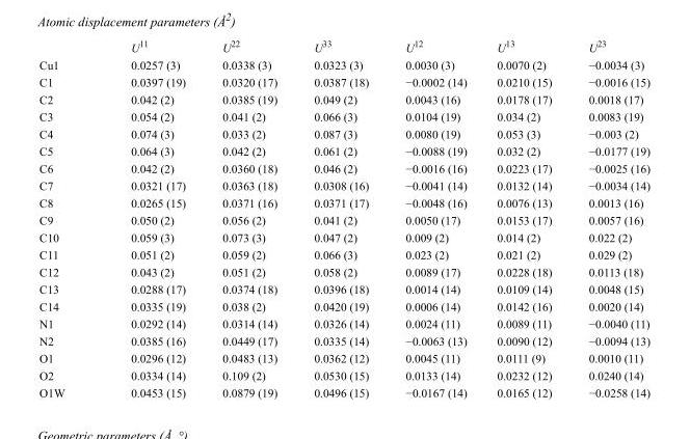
<table><thead><tr><td></td><td>U<sup>11</sup></td><td>U<sup>22</sup></td><td>U<sup>33</sup></td><td>U<sup>12</sup></td><td>U<sup>13</sup></td><td>U<sup>23</sup></td></tr></thead><tbody><tr><td>Cu1</td><td>0.0257 (3)</td><td>0.0338 (3)</td><td>0.0323 (3)</td><td>0.0030 (3)</td><td>0.0070 (2)</td><td>−0.0034 (3)</td></tr><tr><td>C1</td><td>0.0397 (19)</td><td>0.0320 (17)</td><td>0.0387 (18)</td><td>−0.0002 (14)</td><td>0.0210 (15)</td><td>−0.0016 (15)</td></tr><tr><td>C2</td><td>0.042 (2)</td><td>0.0385 (19)</td><td>0.049 (2)</td><td>0.0043 (16)</td><td>0.0178 (17)</td><td>0.0018 (17)</td></tr><tr><td>C3</td><td>0.054 (2)</td><td>0.041 (2)</td><td>0.066 (3)</td><td>0.0104 (19)</td><td>0.034 (2)</td><td>0.0083 (19)</td></tr><tr><td>C4</td><td>0.074 (3)</td><td>0.033 (2)</td><td>0.087 (3)</td><td>0.0080 (19)</td><td>0.053 (3)</td><td>−0.003 (2)</td></tr><tr><td>C5</td><td>0.064 (3)</td><td>0.042 (2)</td><td>0.061 (2)</td><td>−0.0088 (19)</td><td>0.032 (2)</td><td>−0.0177 (19)</td></tr><tr><td>C6</td><td>0.042 (2)</td><td>0.0360 (18)</td><td>0.046 (2)</td><td>−0.0016 (16)</td><td>0.0223 (17)</td><td>−0.0025 (16)</td></tr><tr><td>C7</td><td>0.0321 (17)</td><td>0.0363 (18)</td><td>0.0308 (16)</td><td>−0.0041 (14)</td><td>0.0132 (14)</td><td>−0.0034 (14)</td></tr><tr><td>C8</td><td>0.0265 (15)</td><td>0.0371 (16)</td><td>0.0371 (17)</td><td>−0.0048 (16)</td><td>0.0076 (13)</td><td>0.0013 (16)</td></tr><tr><td>C9</td><td>0.050 (2)</td><td>0.056 (2)</td><td>0.041 (2)</td><td>0.0050 (17)</td><td>0.0153 (17)</td><td>0.0057 (16)</td></tr><tr><td>C10</td><td>0.059 (3)</td><td>0.073 (3)</td><td>0.047 (2)</td><td>0.009 (2)</td><td>0.014 (2)</td><td>0.022 (2)</td></tr><tr><td>C11</td><td>0.051 (2)</td><td>0.059 (2)</td><td>0.066 (3)</td><td>0.023 (2)</td><td>0.021 (2)</td><td>0.029 (2)</td></tr><tr><td>C12</td><td>0.043 (2)</td><td>0.051 (2)</td><td>0.058 (2)</td><td>0.0089 (17)</td><td>0.0228 (18)</td><td>0.0113 (18)</td></tr><tr><td>C13</td><td>0.0288 (17)</td><td>0.0374 (18)</td><td>0.0396 (18)</td><td>0.0014 (14)</td><td>0.0109 (14)</td><td>0.0048 (15)</td></tr><tr><td>C14</td><td>0.0335 (19)</td><td>0.038 (2)</td><td>0.0420 (19)</td><td>0.0006 (14)</td><td>0.0142 (16)</td><td>0.0020 (14)</td></tr><tr><td>N1</td><td>0.0292 (14)</td><td>0.0314 (14)</td><td>0.0326 (14)</td><td>0.0024 (11)</td><td>0.0089 (11)</td><td>−0.0040 (11)</td></tr><tr><td>N2</td><td>0.0385 (16)</td><td>0.0449 (17)</td><td>0.0335 (14)</td><td>−0.0063 (13)</td><td>0.0090 (12)</td><td>−0.0094 (13)</td></tr><tr><td>O1</td><td>0.0296 (12)</td><td>0.0483 (13)</td><td>0.0362 (12)</td><td>0.0045 (11)</td><td>0.0111 (9)</td><td>0.0010 (11)</td></tr><tr><td>O2</td><td>0.0334 (14)</td><td>0.109 (2)</td><td>0.0530 (15)</td><td>0.0133 (14)</td><td>0.0232 (12)</td><td>0.0240 (14)</td></tr><tr><td>O1W</td><td>0.0453 (15)</td><td>0.0879 (19)</td><td>0.0496 (15)</td><td>−0.0167 (14)</td><td>0.0165 (12)</td><td>−0.0258 (14)</td></tr></tbody></table>